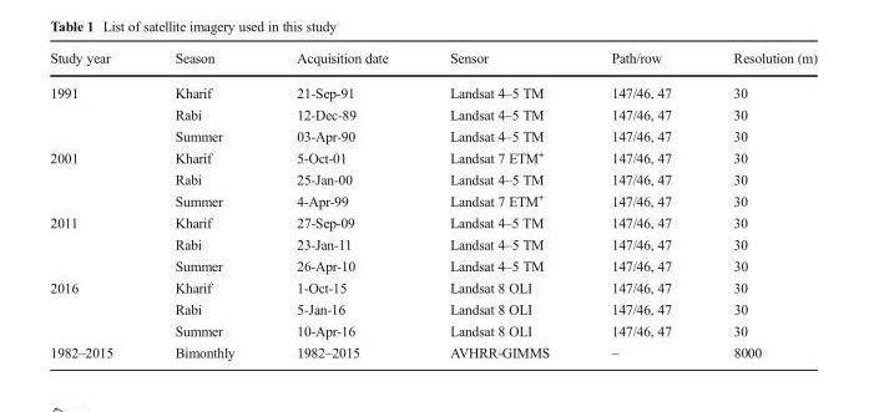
<table><thead><tr><td>Study year</td><td>Season</td><td>Acquisition date</td><td>Sensor</td><td>Path/row</td><td>Resolution (m)</td></tr></thead><tbody><tr><td rowspan="3">1991</td><td>Kharif</td><td>21-Sep-91</td><td>Landsat 4–5 TM</td><td>147/46, 47</td><td>30</td></tr><tr><td>Rabi</td><td>12-Dec-89</td><td>Landsat 4–5 TM</td><td>147/46, 47</td><td>30</td></tr><tr><td>Summer</td><td>03-Apr-90</td><td>Landsat 4–5 TM</td><td>147/46, 47</td><td>30</td></tr><tr><td rowspan="3">2001</td><td>Kharif</td><td>5-Oct-01</td><td>Landsat 7 ETM<sup>+</sup></td><td>147/46, 47</td><td>30</td></tr><tr><td>Rabi</td><td>25-Jan-00</td><td>Landsat 4–5 TM</td><td>147/46, 47</td><td>30</td></tr><tr><td>Summer</td><td>4-Apr-99</td><td>Landsat 7 ETM<sup>+</sup></td><td>147/46, 47</td><td>30</td></tr><tr><td rowspan="3">2011</td><td>Kharif</td><td>27-Sep-09</td><td>Landsat 4–5 TM</td><td>147/46, 47</td><td>30</td></tr><tr><td>Rabi</td><td>23-Jan-11</td><td>Landsat 4–5 TM</td><td>147/46, 47</td><td>30</td></tr><tr><td>Summer</td><td>26-Apr-10</td><td>Landsat 4–5 TM</td><td>147/46, 47</td><td>30</td></tr><tr><td rowspan="3">2016</td><td>Kharif</td><td>1-Oct-15</td><td>Landsat 8 OLI</td><td>147/46, 47</td><td>30</td></tr><tr><td>Rabi</td><td>5-Jan-16</td><td>Landsat 8 OLI</td><td>147/46, 47</td><td>30</td></tr><tr><td>Summer</td><td>10-Apr-16</td><td>Landsat 8 OLI</td><td>147/46, 47</td><td>30</td></tr><tr><td>1982–2015</td><td>Bimonthly</td><td>1982–2015</td><td>AVHRR-GIMMS</td><td>–</td><td>8000</td></tr></tbody></table>